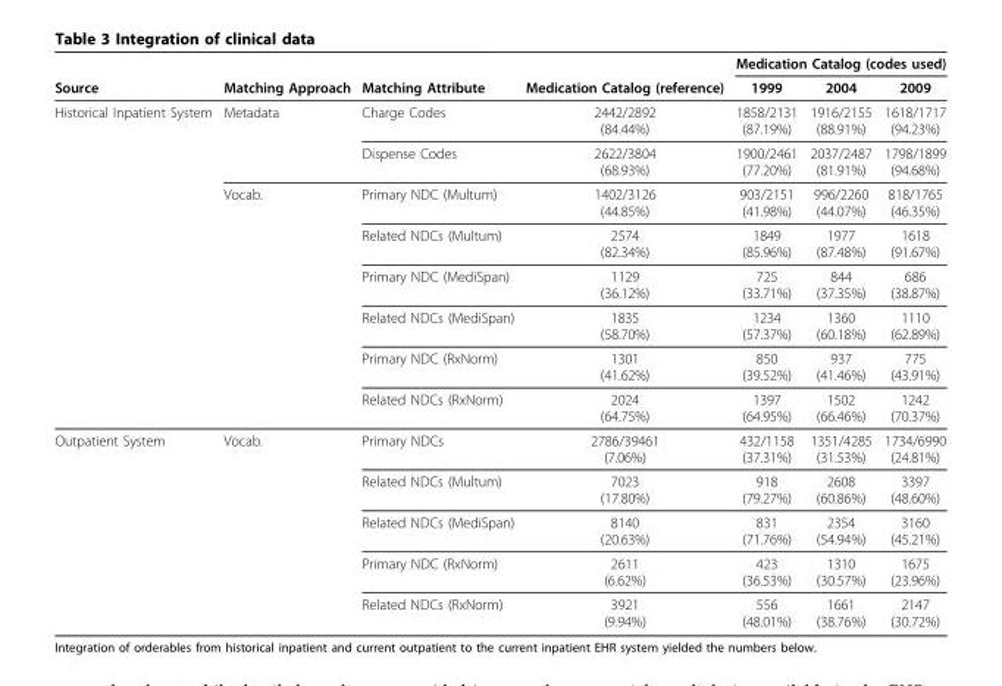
<table><thead><tr><td rowspan="2">Source</td><td rowspan="2">Matching Approach</td><td rowspan="2">Matching Attribute</td><td rowspan="2">Medication Catalog (reference)</td><td colspan="3">Medication Catalog (codes used)</td></tr><tr><td>1999</td><td>2004</td><td>2009</td></tr></thead><tbody><tr><td rowspan="8">Historical Inpatient System</td><td>Metadata</td><td>Charge Codes</td><td>2442/2892 (84.44%)</td><td>1858/2131 (87.19%)</td><td>1916/2155 (88.91%)</td><td>1618/1717 (94.23%)</td></tr><tr><td></td><td>Dispense Codes</td><td>2622/3804 (68.93%)</td><td>1900/2461 (77.20%)</td><td>2037/2487 (81.91%)</td><td>1798/1899 (94.68%)</td></tr><tr><td>Vocab.</td><td>Primary NDC (Multum)</td><td>1402/3126 (44.85%)</td><td>903/2151 (41.98%)</td><td>996/2260 (44.07%)</td><td>818/1765 (46.35%)</td></tr><tr><td></td><td>Related NDCs (Multum)</td><td>2574 (82.34%)</td><td>1849 (85.96%)</td><td>1977 (87.48%)</td><td>1618 (91.67%)</td></tr><tr><td></td><td>Primary NDC (MediSpan)</td><td>1129 (36.12%)</td><td>725 (33.71%)</td><td>844 (37.35%)</td><td>686 (38.87%)</td></tr><tr><td></td><td>Related NDCs (MediSpan)</td><td>1835 (58.70%)</td><td>1234 (57.37%)</td><td>1360 (60.18%)</td><td>1110 (62.89%)</td></tr><tr><td></td><td>Primary NDC (RxNorm)</td><td>1301 (41.62%)</td><td>850 (39.52%)</td><td>937 (41.46%)</td><td>775 (43.91%)</td></tr><tr><td></td><td>Related NDCs (RxNorm)</td><td>2024 (64.75%)</td><td>1397 (64.95%)</td><td>1502 (66.46%)</td><td>1242 (70.37%)</td></tr><tr><td rowspan="5">Outpatient System</td><td>Vocab.</td><td>Primary NDCs</td><td>2786/39461 (7.06%)</td><td>432/1158 (37.31%)</td><td>1351/4285 (31.53%)</td><td>1734/6990 (24.81%)</td></tr><tr><td></td><td>Related NDCs (Multum)</td><td>7023 (17.80%)</td><td>918 (79.27%)</td><td>2608 (60.86%)</td><td>3397 (48.60%)</td></tr><tr><td></td><td>Related NDCs (MediSpan)</td><td>8140 (20.63%)</td><td>831 (71.76%)</td><td>2354 (54.94%)</td><td>3160 (45.21%)</td></tr><tr><td></td><td>Primary NDC (RxNorm)</td><td>2611 (6.62%)</td><td>423 (36.53%)</td><td>1310 (30.57%)</td><td>1675 (23.96%)</td></tr><tr><td></td><td>Related NDCs (RxNorm)</td><td>3921 (9.94%)</td><td>556 (48.01%)</td><td>1661 (38.76%)</td><td>2147 (30.72%)</td></tr></tbody></table>